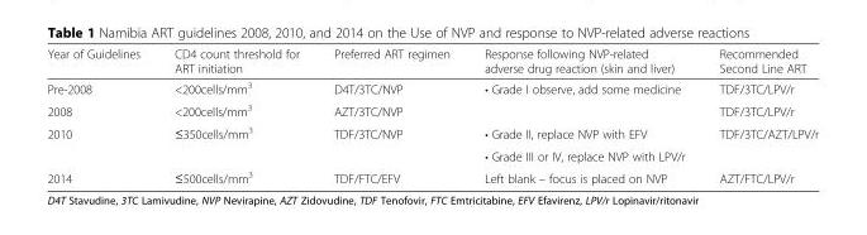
<table><thead><tr><td>Year of Guidelines</td><td>CD4 count threshold for ART initiation</td><td>Preferred ART regimen</td><td>Response following NVP-related adverse drug reaction (skin and liver)</td><td>Recommended Second Line ART</td></tr></thead><tbody><tr><td>Pre-2008</td><td>&lt;200cells/mm<sup>3</sup></td><td>D4T/3TC/NVP</td><td rowspan="2">• Grade I observe, add some medicine</td><td>TDF/3TC/LPV/r</td></tr><tr><td>2008</td><td>&lt;200cells/mm<sup>3</sup></td><td>AZT/3TC/NVP</td><td>TDF/3TC/LPV/r</td></tr><tr><td rowspan="2">2010</td><td rowspan="2">≤350cells/mm<sup>3</sup></td><td rowspan="2">TDF/3TC/NVP</td><td>• Grade II, replace NVP with EFV</td><td rowspan="2">TDF/3TC/AZT/LPV/r</td></tr><tr><td>• Grade III or IV, replace NVP with LPV/r</td></tr><tr><td>2014</td><td>≤500cells/mm<sup>3</sup></td><td>TDF/FTC/EFV</td><td>Left blank – focus is placed on NVP</td><td>AZT/FTC/LPV/r</td></tr></tbody></table>